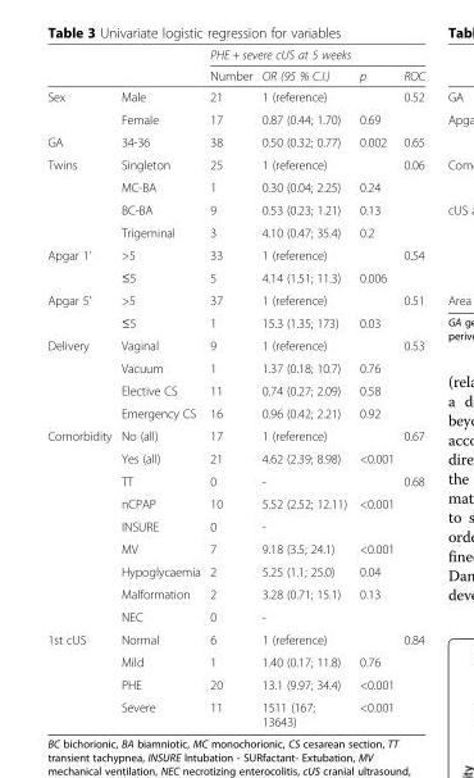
<table><thead><tr><td rowspan="2"></td><td rowspan="2"></td><td colspan="4">PHE + severe cUS at 5 weeks</td></tr><tr><td>Number</td><td>OR (95 % C.I.)</td><td>p</td><td>ROC</td></tr></thead><tbody><tr><td rowspan="2">Sex</td><td>Male</td><td>21</td><td>1 (reference)</td><td></td><td>0.52</td></tr><tr><td>Female</td><td>17</td><td>0.87 (0.44; 1.70)</td><td>0.69</td><td></td></tr><tr><td>GA</td><td>34-36</td><td>38</td><td>0.50 (0.32; 0.77)</td><td>0.002</td><td>0.65</td></tr><tr><td rowspan="4">Twins</td><td>Singleton</td><td>25</td><td>1 (reference)</td><td></td><td>0.06</td></tr><tr><td>MC-BA</td><td>1</td><td>0.30 (0.04; 2.25)</td><td>0.24</td><td></td></tr><tr><td>BC-BA</td><td>9</td><td>0.53 (0.23; 1.21)</td><td>0.13</td><td></td></tr><tr><td>Trigeminal</td><td>3</td><td>4.10 (0.47; 35.4)</td><td>0.2</td><td></td></tr><tr><td rowspan="2">Apgar 1’</td><td>&gt;5</td><td>33</td><td>1 (reference)</td><td></td><td>0.54</td></tr><tr><td>≤5</td><td>5</td><td>4.14 (1.51; 11.3)</td><td>0.006</td><td></td></tr><tr><td rowspan="2">Apgar 5’</td><td>&gt;5</td><td>37</td><td>1 (reference)</td><td></td><td>0.51</td></tr><tr><td>≤5</td><td>1</td><td>15.3 (1.35; 173)</td><td>0.03</td><td></td></tr><tr><td rowspan="4">Delivery</td><td>Vaginal</td><td>9</td><td>1 (reference)</td><td></td><td>0.53</td></tr><tr><td>Vacuum</td><td>1</td><td>1.37 (0.18; 10.7)</td><td>0.76</td><td></td></tr><tr><td>Elective CS</td><td>11</td><td>0.74 (0.27; 2.09)</td><td>0.58</td><td></td></tr><tr><td>Emergency CS</td><td>16</td><td>0.96 (0.42; 2.21)</td><td>0.92</td><td></td></tr><tr><td rowspan="9">Comorbidity</td><td>No (all)</td><td>17</td><td>1 (reference)</td><td></td><td>0.67</td></tr><tr><td>Yes (all)</td><td>21</td><td>4.62 (2.39; 8.98)</td><td>&lt;0.001</td><td></td></tr><tr><td>TT</td><td>0</td><td>-</td><td></td><td>0.68</td></tr><tr><td>nCPAP</td><td>10</td><td>5.52 (2.52; 12.11)</td><td>&lt;0.001</td><td></td></tr><tr><td>INSURE</td><td>0</td><td>-</td><td></td><td></td></tr><tr><td>MV</td><td>7</td><td>9.18 (3.5; 24.1)</td><td>&lt;0.001</td><td></td></tr><tr><td>Hypoglycaemia</td><td>2</td><td>5.25 (1.1; 25.0)</td><td>0.04</td><td></td></tr><tr><td>Malformation</td><td>2</td><td>3.28 (0.71; 15.1)</td><td>0.13</td><td></td></tr><tr><td>NEC</td><td>0</td><td>-</td><td></td><td></td></tr><tr><td rowspan="4">1st cUS</td><td>Normal</td><td>6</td><td>1 (reference)</td><td></td><td>0.84</td></tr><tr><td>Mild</td><td>1</td><td>1.40 (0.17; 11.8)</td><td>0.76</td><td></td></tr><tr><td>PHE</td><td>20</td><td>13.1 (9.97; 34.4)</td><td>&lt;0.001</td><td></td></tr><tr><td>Severe</td><td>11</td><td>1511 (167; 13643)</td><td>&lt;0.001</td><td></td></tr></tbody></table>